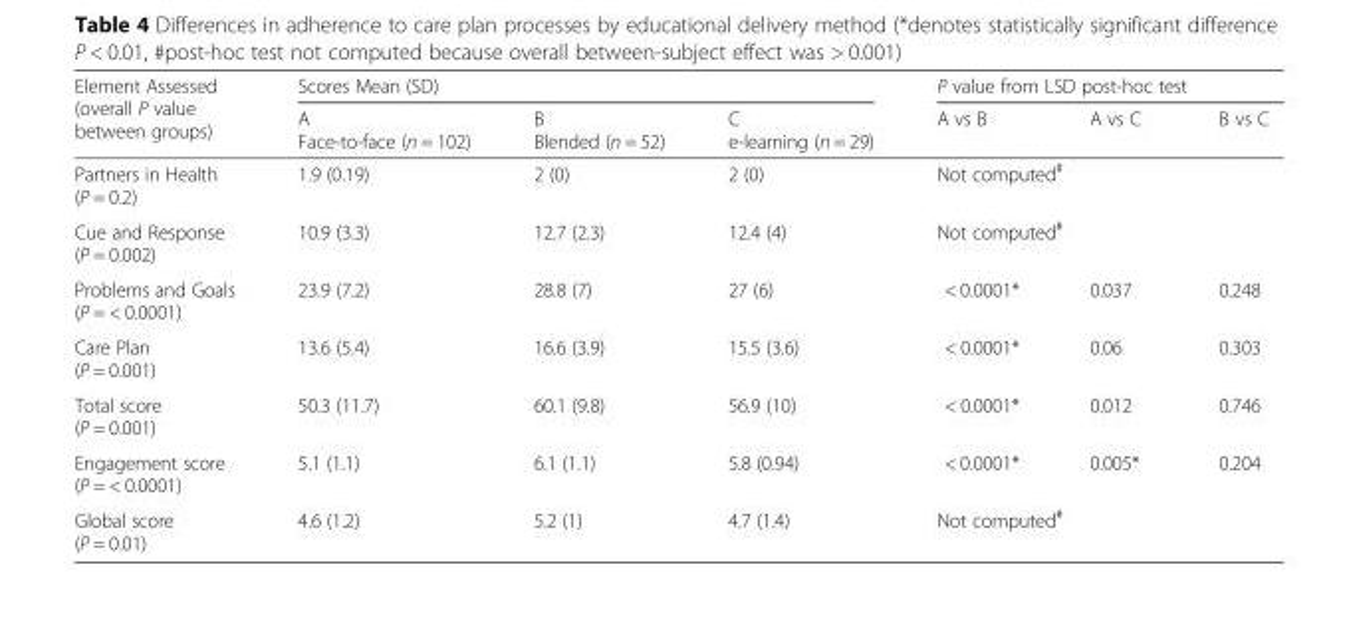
<table><thead><tr><td rowspan="2">Element Assessed (overall P value between groups)</td><td colspan="3">Scores Mean (SD)</td><td colspan="3">P value from LSD post-hoc test</td></tr><tr><td>A Face-to-face (n = 102)</td><td>B Blended (n = 52)</td><td>C e-learning (n = 29)</td><td>A vs B</td><td>A vs C</td><td>B vs C</td></tr></thead><tbody><tr><td>Partners in Health (P = 0.2)</td><td>1.9 (0.19)</td><td>2 (0)</td><td>2 (0)</td><td colspan="3">Not computed<sup>#</sup></td></tr><tr><td>Cue and Response (P = 0.002)</td><td>10.9 (3.3)</td><td>12.7 (2.3)</td><td>12.4 (4)</td><td colspan="3">Not computed<sup>#</sup></td></tr><tr><td>Problems and Goals (P = &lt; 0.0001)</td><td>23.9 (7.2)</td><td>28.8 (7)</td><td>27 (6)</td><td>&lt; 0.0001*</td><td>0.037</td><td>0.248</td></tr><tr><td>Care Plan (P = 0.001)</td><td>13.6 (5.4)</td><td>16.6 (3.9)</td><td>15.5 (3.6)</td><td>&lt; 0.0001*</td><td>0.06</td><td>0.303</td></tr><tr><td>Total score (P = 0.001)</td><td>50.3 (11.7)</td><td>60.1 (9.8)</td><td>56.9 (10)</td><td>&lt; 0.0001*</td><td>0.012</td><td>0.746</td></tr><tr><td>Engagement score (P = &lt; 0.0001)</td><td>5.1 (1.1)</td><td>6.1 (1.1)</td><td>5.8 (0.94)</td><td>&lt; 0.0001*</td><td>0.005*</td><td>0.204</td></tr><tr><td>Global score (P = 0.01)</td><td>4.6 (1.2)</td><td>5.2 (1)</td><td>4.7 (1.4)</td><td colspan="3">Not computed<sup>#</sup></td></tr></tbody></table>